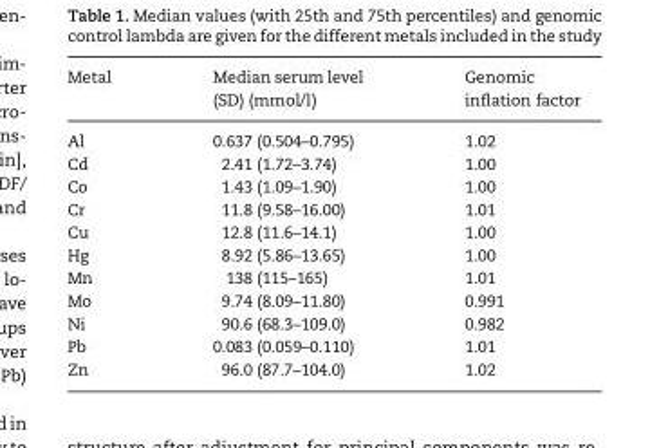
<table><thead><tr><td>Metal</td><td>Median serum level (SD) (mmol/l)</td><td>Genomic inflation factor</td></tr></thead><tbody><tr><td>Al</td><td>0.637 (0.504–0.795)</td><td>1.02</td></tr><tr><td>Cd</td><td>2.41 (1.72–3.74)</td><td>1.00</td></tr><tr><td>Co</td><td>1.43 (1.09–1.90)</td><td>1.00</td></tr><tr><td>Cr</td><td>11.8 (9.58–16.00)</td><td>1.01</td></tr><tr><td>Cu</td><td>12.8 (11.6–14.1)</td><td>1.00</td></tr><tr><td>Hg</td><td>8.92 (5.86–13.65)</td><td>1.00</td></tr><tr><td>Mn</td><td>138 (115–165)</td><td>1.01</td></tr><tr><td>Mo</td><td>9.74 (8.09–11.80)</td><td>0.991</td></tr><tr><td>Ni</td><td>90.6 (68.3–109.0)</td><td>0.982</td></tr><tr><td>Pb</td><td>0.083 (0.059–0.110)</td><td>1.01</td></tr><tr><td>Zn</td><td>96.0 (87.7–104.0)</td><td>1.02</td></tr></tbody></table>